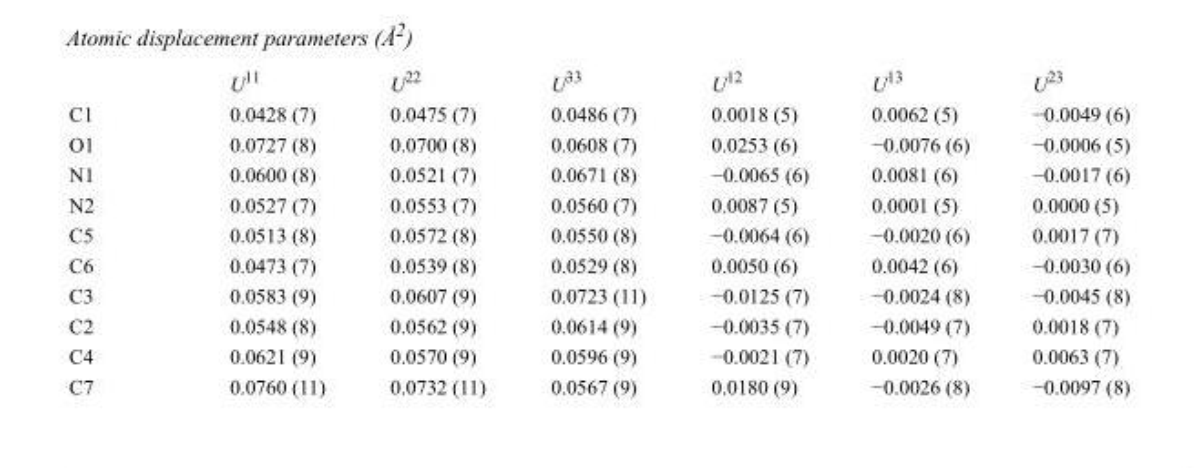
<table><thead><tr><td></td><td>U<sup>11</sup></td><td>U<sup>22</sup></td><td>U<sup>33</sup></td><td>U<sup>12</sup></td><td>U<sup>13</sup></td><td>U<sup>23</sup></td></tr></thead><tbody><tr><td>C1</td><td>0.0428 (7)</td><td>0.0475 (7)</td><td>0.0486 (7)</td><td>0.0018 (5)</td><td>0.0062 (5)</td><td>−0.0049 (6)</td></tr><tr><td>O1</td><td>0.0727 (8)</td><td>0.0700 (8)</td><td>0.0608 (7)</td><td>0.0253 (6)</td><td>−0.0076 (6)</td><td>−0.0006 (5)</td></tr><tr><td>N1</td><td>0.0600 (8)</td><td>0.0521 (7)</td><td>0.0671 (8)</td><td>−0.0065 (6)</td><td>0.0081 (6)</td><td>−0.0017 (6)</td></tr><tr><td>N2</td><td>0.0527 (7)</td><td>0.0553 (7)</td><td>0.0560 (7)</td><td>0.0087 (5)</td><td>0.0001 (5)</td><td>0.0000 (5)</td></tr><tr><td>C5</td><td>0.0513 (8)</td><td>0.0572 (8)</td><td>0.0550 (8)</td><td>−0.0064 (6)</td><td>−0.0020 (6)</td><td>0.0017 (7)</td></tr><tr><td>C6</td><td>0.0473 (7)</td><td>0.0539 (8)</td><td>0.0529 (8)</td><td>0.0050 (6)</td><td>0.0042 (6)</td><td>−0.0030 (6)</td></tr><tr><td>C3</td><td>0.0583 (9)</td><td>0.0607 (9)</td><td>0.0723 (11)</td><td>−0.0125 (7)</td><td>−0.0024 (8)</td><td>−0.0045 (8)</td></tr><tr><td>C2</td><td>0.0548 (8)</td><td>0.0562 (9)</td><td>0.0614 (9)</td><td>−0.0035 (7)</td><td>−0.0049 (7)</td><td>0.0018 (7)</td></tr><tr><td>C4</td><td>0.0621 (9)</td><td>0.0570 (9)</td><td>0.0596 (9)</td><td>−0.0021 (7)</td><td>0.0020 (7)</td><td>0.0063 (7)</td></tr><tr><td>C7</td><td>0.0760 (11)</td><td>0.0732 (11)</td><td>0.0567 (9)</td><td>0.0180 (9)</td><td>−0.0026 (8)</td><td>−0.0097 (8)</td></tr></tbody></table>